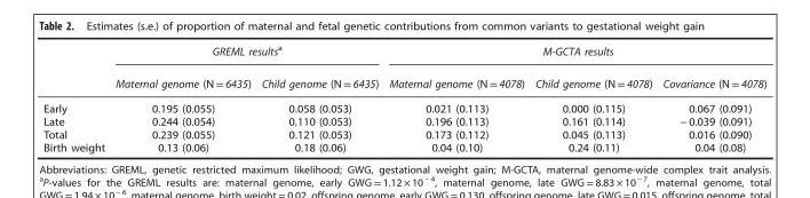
<table><thead><tr><td rowspan="2"></td><td colspan="2">GREML results<sup>a</sup></td><td colspan="3">M-GCTA results</td></tr><tr><td>Maternal genome (N = 6435)</td><td>Child genome (N = 6435)</td><td>Maternal genome (N = 4078)</td><td>Child genome (N = 4078)</td><td>Covariance (N = 4078)</td></tr></thead><tbody><tr><td>Early</td><td>0.195 (0.055)</td><td>0.058 (0.053)</td><td>0.021 (0.113)</td><td>0.000 (0.115)</td><td>0.067 (0.091)</td></tr><tr><td>Late</td><td>0.244 (0.054)</td><td>0.110 (0.053)</td><td>0.196 (0.113)</td><td>0.161 (0.114)</td><td>− 0.039 (0.091)</td></tr><tr><td>Total</td><td>0.239 (0.055)</td><td>0.121 (0.053)</td><td>0.173 (0.112)</td><td>0.045 (0.113)</td><td>0.016 (0.090)</td></tr><tr><td>Birth weight</td><td>0.13 (0.06)</td><td>0.18 (0.06)</td><td>0.04 (0.10)</td><td>0.24 (0.11)</td><td>0.04 (0.08)</td></tr></tbody></table>